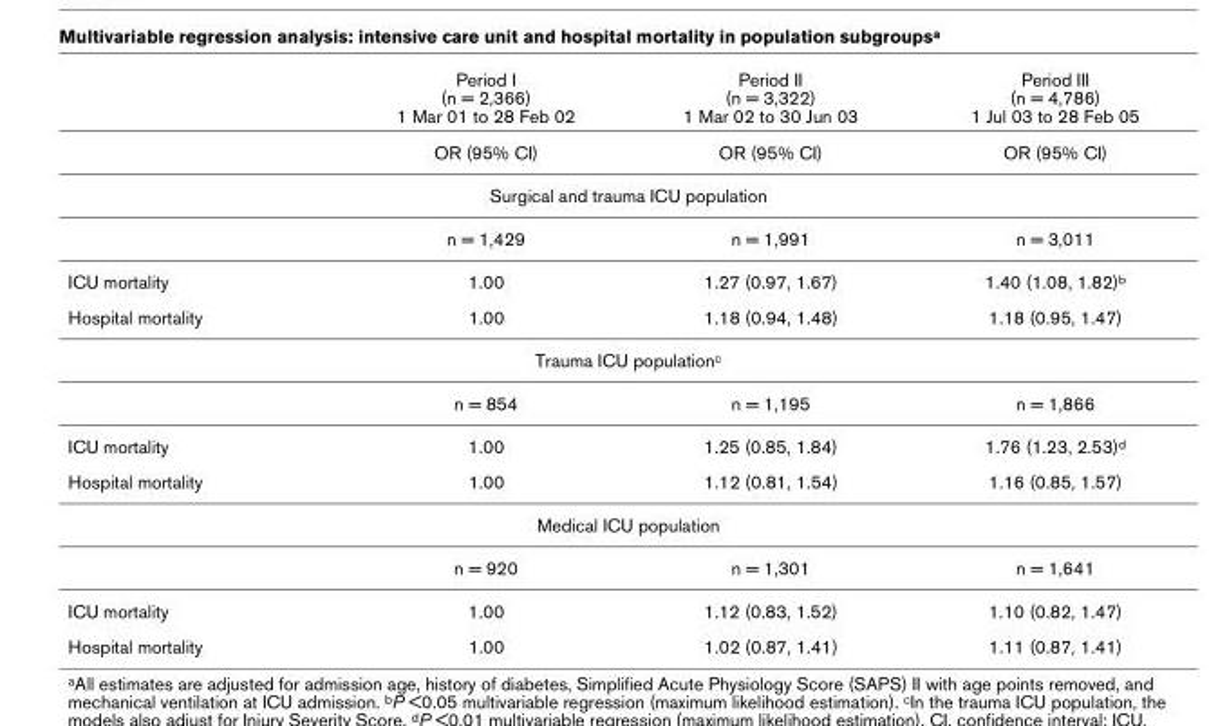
<table><thead><tr><td></td><td>Period I (n = 2,366) 1 Mar 01 to 28 Feb 02</td><td>Period II (n = 3,322) 1 Mar 02 to 30 Jun 03</td><td>Period III (n = 4,786) 1 Jul 03 to 28 Feb 05</td></tr></thead><tbody><tr><td></td><td>OR (95% CI)</td><td>OR (95% CI)</td><td>OR (95% CI)</td></tr><tr><td colspan="4">Surgical and trauma ICU population</td></tr><tr><td></td><td>n = 1,429</td><td>n = 1,991</td><td>n = 3,011</td></tr><tr><td>ICU mortality</td><td>1.00</td><td>1.27 (0.97, 1.67)</td><td>1.40 (1.08, 1.82)<sup>b</sup></td></tr><tr><td>Hospital mortality</td><td>1.00</td><td>1.18 (0.94, 1.48)</td><td>1.18 (0.95, 1.47)</td></tr><tr><td colspan="4">Trauma ICU population<sup>c</sup></td></tr><tr><td></td><td>n = 854</td><td>n = 1,195</td><td>n = 1,866</td></tr><tr><td>ICU mortality</td><td>1.00</td><td>1.25 (0.85, 1.84)</td><td>1.76 (1.23, 2.53)<sup>d</sup></td></tr><tr><td>Hospital mortality</td><td>1.00</td><td>1.12 (0.81, 1.54)</td><td>1.16 (0.85, 1.57)</td></tr><tr><td colspan="4">Medical ICU population</td></tr><tr><td></td><td>n = 920</td><td>n = 1,301</td><td>n = 1,641</td></tr><tr><td>ICU mortality</td><td>1.00</td><td>1.12 (0.83, 1.52)</td><td>1.10 (0.82, 1.47)</td></tr><tr><td>Hospital mortality</td><td>1.00</td><td>1.02 (0.87, 1.41)</td><td>1.11 (0.87, 1.41)</td></tr></tbody></table>